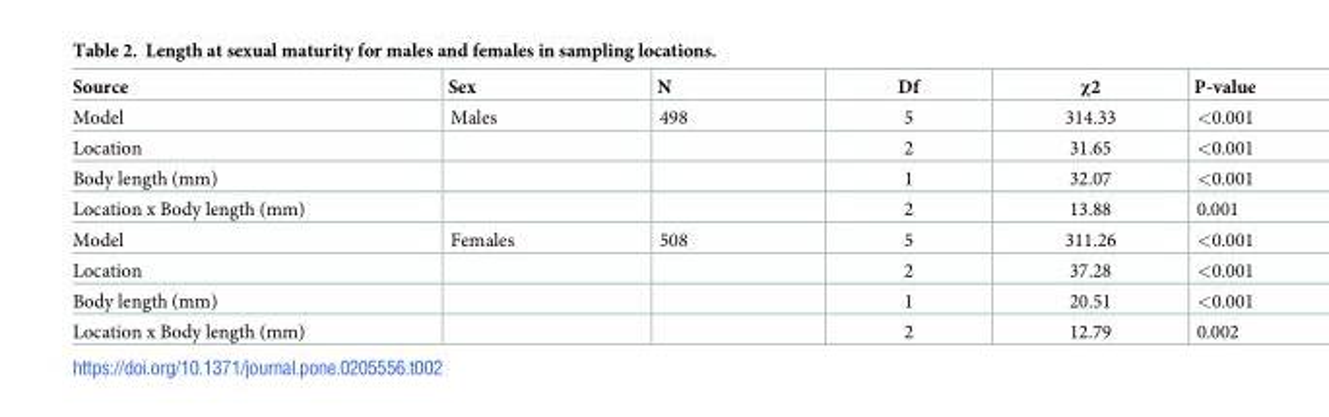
<table><thead><tr><td>Source</td><td>Sex</td><td>N</td><td>Df</td><td>χ2</td><td>P-value</td></tr></thead><tbody><tr><td>Model</td><td>Males</td><td>498</td><td>5</td><td>314.33</td><td>&lt;0.001</td></tr><tr><td>Location</td><td></td><td></td><td>2</td><td>31.65</td><td>&lt;0.001</td></tr><tr><td>Body length (mm)</td><td></td><td></td><td>1</td><td>32.07</td><td>&lt;0.001</td></tr><tr><td>Location x Body length (mm)</td><td></td><td></td><td>2</td><td>13.88</td><td>0.001</td></tr><tr><td>Model</td><td>Females</td><td>508</td><td>5</td><td>311.26</td><td>&lt;0.001</td></tr><tr><td>Location</td><td></td><td></td><td>2</td><td>37.28</td><td>&lt;0.001</td></tr><tr><td>Body length (mm)</td><td></td><td></td><td>1</td><td>20.51</td><td>&lt;0.001</td></tr><tr><td>Location x Body length (mm)</td><td></td><td></td><td>2</td><td>12.79</td><td>0.002</td></tr></tbody></table>